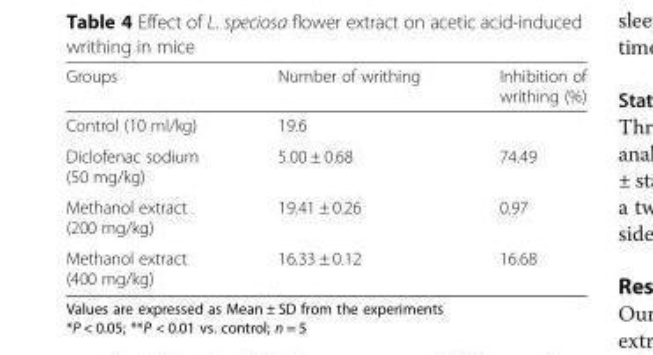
<table><thead><tr><td>Groups</td><td>Number of writhing</td><td>Inhibition of writhing (%)</td></tr></thead><tbody><tr><td>Control (10 ml/kg)</td><td>19.6</td><td></td></tr><tr><td>Diclofenac sodium (50 mg/kg)</td><td>5.00 ± 0.68</td><td>74.49</td></tr><tr><td>Methanol extract (200 mg/kg)</td><td>19.41 ± 0.26</td><td>0.97</td></tr><tr><td>Methanol extract (400 mg/kg)</td><td>16.33 ± 0.12</td><td>16.68</td></tr></tbody></table>